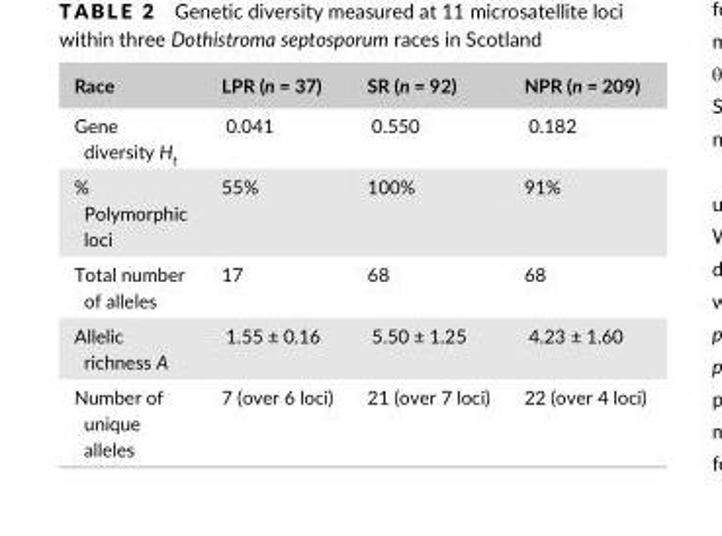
<table><thead><tr><td>Race</td><td>LPR (n = 37)</td><td>SR (n = 92)</td><td>NPR (n = 209)</td></tr></thead><tbody><tr><td>Gene diversity H<sub>t</sub></td><td>0.041</td><td>0.550</td><td>0.182</td></tr><tr><td>% Polymorphic loci</td><td>55%</td><td>100%</td><td>91%</td></tr><tr><td>Total number of alleles</td><td>17</td><td>68</td><td>68</td></tr><tr><td>Allelic richness A</td><td>1.55 ± 0.16</td><td>5.50 ± 1.25</td><td>4.23 ± 1.60</td></tr><tr><td>Number of unique alleles</td><td>7 (over 6 loci)</td><td>21 (over 7 loci)</td><td>22 (over 4 loci)</td></tr></tbody></table>